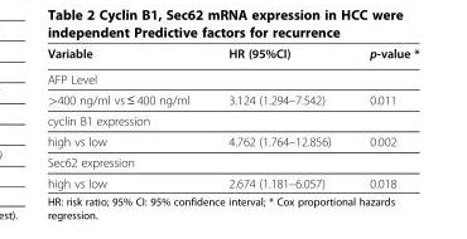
<table><thead><tr><td>Variable</td><td>HR (95%CI)</td><td>p-value *</td></tr></thead><tbody><tr><td colspan="3">AFP Level</td></tr><tr><td>&gt;400 ng/ml vs ≤ 400 ng/ml</td><td>3.124 (1.294–7.542)</td><td>0.011</td></tr><tr><td colspan="3">cyclin B1 expression</td></tr><tr><td>high vs low</td><td>4.762 (1.764–12.856)</td><td>0.002</td></tr><tr><td colspan="3">Sec62 expression</td></tr><tr><td>high vs low</td><td>2.674 (1.181–6.057)</td><td>0.018</td></tr></tbody></table>